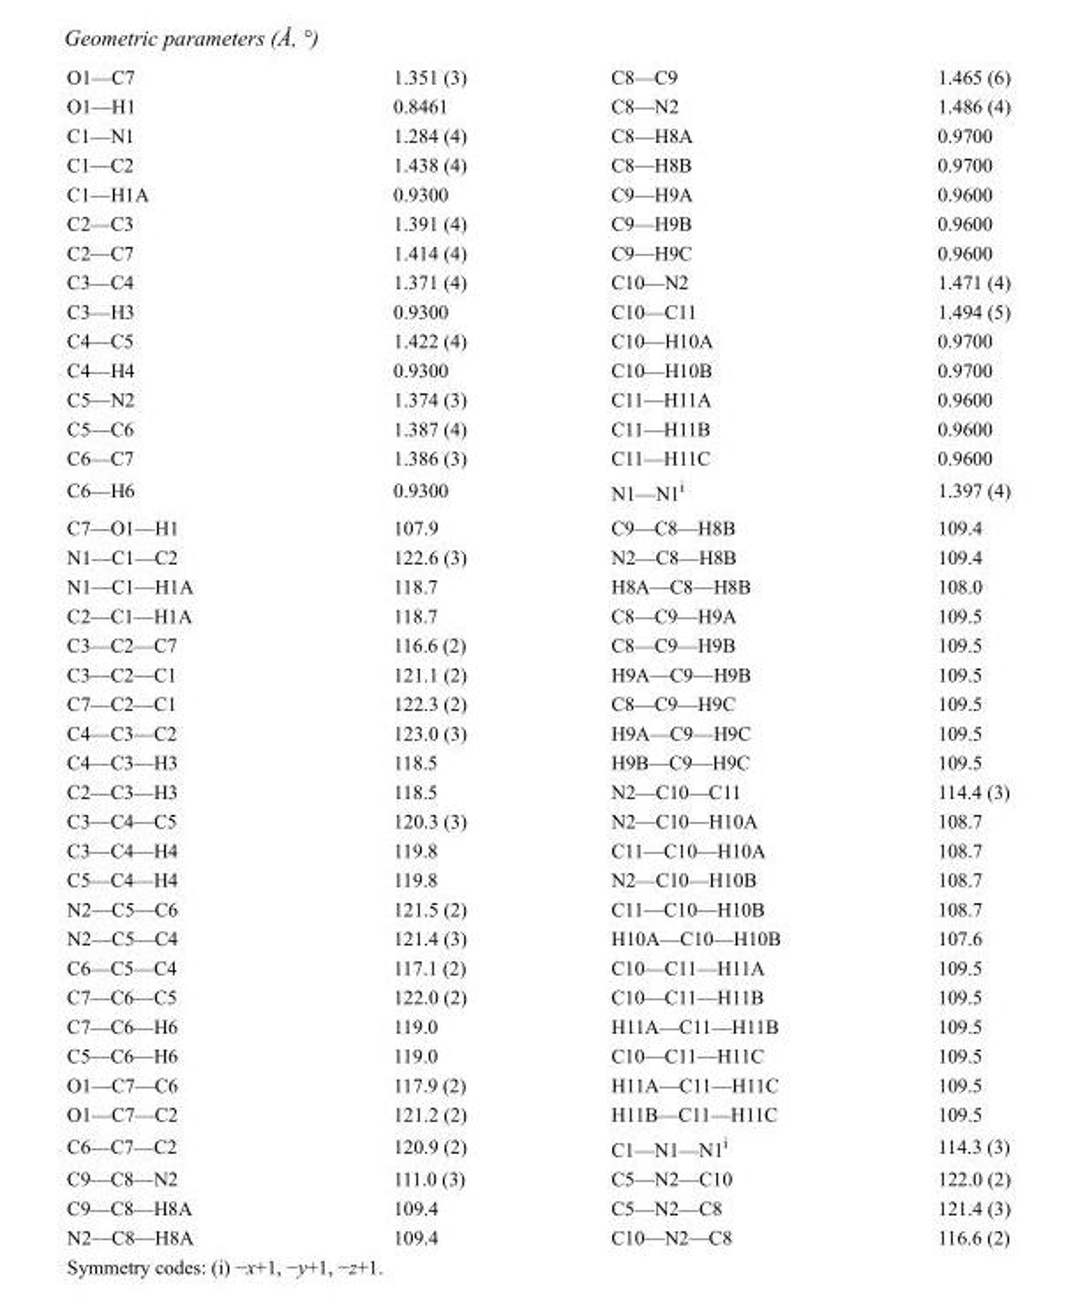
<table><tbody><tr><td>O1—C7</td><td>1.351 (3)</td><td>C8—C9</td><td>1.465 (6)</td></tr><tr><td>O1—H1</td><td>0.8461</td><td>C8—N2</td><td>1.486 (4)</td></tr><tr><td>C1—N1</td><td>1.284 (4)</td><td>C8—H8A</td><td>0.9700</td></tr><tr><td>C1—C2</td><td>1.438 (4)</td><td>C8—H8B</td><td>0.9700</td></tr><tr><td>C1—H1A</td><td>0.9300</td><td>C9—H9A</td><td>0.9600</td></tr><tr><td>C2—C3</td><td>1.391 (4)</td><td>C9—H9B</td><td>0.9600</td></tr><tr><td>C2—C7</td><td>1.414 (4)</td><td>C9—H9C</td><td>0.9600</td></tr><tr><td>C3—C4</td><td>1.371 (4)</td><td>C10—N2</td><td>1.471 (4)</td></tr><tr><td>C3—H3</td><td>0.9300</td><td>C10—C11</td><td>1.494 (5)</td></tr><tr><td>C4—C5</td><td>1.422 (4)</td><td>C10—H10A</td><td>0.9700</td></tr><tr><td>C4—H4</td><td>0.9300</td><td>C10—H10B</td><td>0.9700</td></tr><tr><td>C5—N2</td><td>1.374 (3)</td><td>C11—H11A</td><td>0.9600</td></tr><tr><td>C5—C6</td><td>1.387 (4)</td><td>C11—H11B</td><td>0.9600</td></tr><tr><td>C6—C7</td><td>1.386 (3)</td><td>C11—H11C</td><td>0.9600</td></tr><tr><td>C6—H6</td><td>0.9300</td><td>N1—N1<sup>i</sup></td><td>1.397 (4)</td></tr><tr><td>C7—O1—H1</td><td>107.9</td><td>C9—C8—H8B</td><td>109.4</td></tr><tr><td>N1—C1—C2</td><td>122.6 (3)</td><td>N2—C8—H8B</td><td>109.4</td></tr><tr><td>N1—C1—H1A</td><td>118.7</td><td>H8A—C8—H8B</td><td>108.0</td></tr><tr><td>C2—C1—H1A</td><td>118.7</td><td>C8—C9—H9A</td><td>109.5</td></tr><tr><td>C3—C2—C7</td><td>116.6 (2)</td><td>C8—C9—H9B</td><td>109.5</td></tr><tr><td>C3—C2—C1</td><td>121.1 (2)</td><td>H9A—C9—H9B</td><td>109.5</td></tr><tr><td>C7—C2—C1</td><td>122.3 (2)</td><td>C8—C9—H9C</td><td>109.5</td></tr><tr><td>C4—C3—C2</td><td>123.0 (3)</td><td>H9A—C9—H9C</td><td>109.5</td></tr><tr><td>C4—C3—H3</td><td>118.5</td><td>H9B—C9—H9C</td><td>109.5</td></tr><tr><td>C2—C3—H3</td><td>118.5</td><td>N2—C10—C11</td><td>114.4 (3)</td></tr><tr><td>C3—C4—C5</td><td>120.3 (3)</td><td>N2—C10—H10A</td><td>108.7</td></tr><tr><td>C3—C4—H4</td><td>119.8</td><td>C11—C10—H10A</td><td>108.7</td></tr><tr><td>C5—C4—H4</td><td>119.8</td><td>N2—C10—H10B</td><td>108.7</td></tr><tr><td>N2—C5—C6</td><td>121.5 (2)</td><td>C11—C10—H10B</td><td>108.7</td></tr><tr><td>N2—C5—C4</td><td>121.4 (3)</td><td>H10A—C10—H10B</td><td>107.6</td></tr><tr><td>C6—C5—C4</td><td>117.1 (2)</td><td>C10—C11—H11A</td><td>109.5</td></tr><tr><td>C7—C6—C5</td><td>122.0 (2)</td><td>C10—C11—H11B</td><td>109.5</td></tr><tr><td>C7—C6—H6</td><td>119.0</td><td>H11A—C11—H11B</td><td>109.5</td></tr><tr><td>C5—C6—H6</td><td>119.0</td><td>C10—C11—H11C</td><td>109.5</td></tr><tr><td>O1—C7—C6</td><td>117.9 (2)</td><td>H11A—C11—H11C</td><td>109.5</td></tr><tr><td>O1—C7—C2</td><td>121.2 (2)</td><td>H11B—C11—H11C</td><td>109.5</td></tr><tr><td>C6—C7—C2</td><td>120.9 (2)</td><td>C1—N1—N1<sup>i</sup></td><td>114.3 (3)</td></tr><tr><td>C9—C8—N2</td><td>111.0 (3)</td><td>C5—N2—C10</td><td>122.0 (2)</td></tr><tr><td>C9—C8—H8A</td><td>109.4</td><td>C5—N2—C8</td><td>121.4 (3)</td></tr><tr><td>N2—C8—H8A</td><td>109.4</td><td>C10—N2—C8</td><td>116.6 (2)</td></tr></tbody></table>